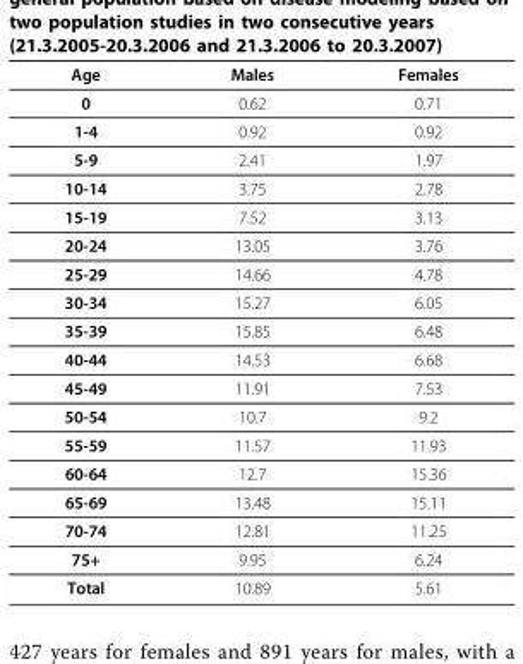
<table><thead><tr><td>Age</td><td>Males</td><td>Females</td></tr></thead><tbody><tr><td>0</td><td>0.62</td><td>0.71</td></tr><tr><td>1-4</td><td>0.92</td><td>0.92</td></tr><tr><td>5-9</td><td>2.41</td><td>1.97</td></tr><tr><td>10-14</td><td>3.75</td><td>2.78</td></tr><tr><td>15-19</td><td>7.52</td><td>3.13</td></tr><tr><td>20-24</td><td>13.05</td><td>3.76</td></tr><tr><td>25-29</td><td>14.66</td><td>4.78</td></tr><tr><td>30-34</td><td>15.27</td><td>6.05</td></tr><tr><td>35-39</td><td>15.85</td><td>6.48</td></tr><tr><td>40-44</td><td>14.53</td><td>6.68</td></tr><tr><td>45-49</td><td>11.91</td><td>7.53</td></tr><tr><td>50-54</td><td>10.7</td><td>9.2</td></tr><tr><td>55-59</td><td>11.57</td><td>11.93</td></tr><tr><td>60-64</td><td>12.7</td><td>15.36</td></tr><tr><td>65-69</td><td>13.48</td><td>15.11</td></tr><tr><td>70-74</td><td>12.81</td><td>11.25</td></tr><tr><td>75+</td><td>9.95</td><td>6.24</td></tr><tr><td>Total</td><td>10.89</td><td>5.61</td></tr></tbody></table>